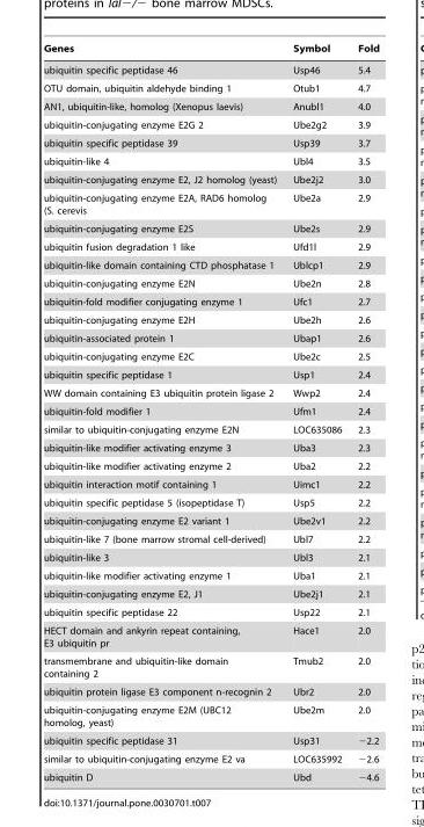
<table><thead><tr><td>Genes</td><td>Symbol</td><td>Fold</td></tr></thead><tbody><tr><td>ubiquitin specific peptidase 46</td><td>Usp46</td><td>5.4</td></tr><tr><td>OTU domain, ubiquitin aldehyde binding 1</td><td>Otub1</td><td>4.7</td></tr><tr><td>AN1, ubiquitin-like, homolog (Xenopus laevis)</td><td>Anubl1</td><td>4.0</td></tr><tr><td>ubiquitin-conjugating enzyme E2G 2</td><td>Ube2g2</td><td>3.9</td></tr><tr><td>ubiquitin specific peptidase 39</td><td>Usp39</td><td>3.7</td></tr><tr><td>ubiquitin-like 4</td><td>Ubl4</td><td>3.5</td></tr><tr><td>ubiquitin-conjugating enzyme E2, J2 homolog (yeast)</td><td>Ube2j2</td><td>3.0</td></tr><tr><td>ubiquitin-conjugating enzyme E2A, RAD6 homolog (S. cerevis</td><td>Ube2a</td><td>2.9</td></tr><tr><td>ubiquitin-conjugating enzyme E2S</td><td>Ube2s</td><td>2.9</td></tr><tr><td>ubiquitin fusion degradation 1 like</td><td>Ufd1l</td><td>2.9</td></tr><tr><td>ubiquitin-like domain containing CTD phosphatase 1</td><td>Ublcp1</td><td>2.9</td></tr><tr><td>ubiquitin-conjugating enzyme E2N</td><td>Ube2n</td><td>2.8</td></tr><tr><td>ubiquitin-fold modifier conjugating enzyme 1</td><td>Ufc1</td><td>2.7</td></tr><tr><td>ubiquitin-conjugating enzyme E2H</td><td>Ube2h</td><td>2.6</td></tr><tr><td>ubiquitin-associated protein 1</td><td>Ubap1</td><td>2.6</td></tr><tr><td>ubiquitin-conjugating enzyme E2C</td><td>Ube2c</td><td>2.5</td></tr><tr><td>ubiquitin specific peptidase 1</td><td>Usp1</td><td>2.4</td></tr><tr><td>WW domain containing E3 ubiquitin protein ligase 2</td><td>Wwp2</td><td>2.4</td></tr><tr><td>ubiquitin-fold modifier 1</td><td>Ufm1</td><td>2.4</td></tr><tr><td>similar to ubiquitin-conjugating enzyme E2N</td><td>LOC635086</td><td>2.3</td></tr><tr><td>ubiquitin-like modifier activating enzyme 3</td><td>Uba3</td><td>2.3</td></tr><tr><td>ubiquitin-like modifier activating enzyme 2</td><td>Uba2</td><td>2.2</td></tr><tr><td>ubiquitin interaction motif containing 1</td><td>Uimc1</td><td>2.2</td></tr><tr><td>ubiquitin specific peptidase 5 (isopeptidase T)</td><td>Usp5</td><td>2.2</td></tr><tr><td>ubiquitin-conjugating enzyme E2 variant 1</td><td>Ube2v1</td><td>2.2</td></tr><tr><td>ubiquitin-like 7 (bone marrow stromal cell-derived)</td><td>Ubl7</td><td>2.2</td></tr><tr><td>ubiquitin-like 3</td><td>Ubl3</td><td>2.1</td></tr><tr><td>ubiquitin-like modifier activating enzyme 1</td><td>Uba1</td><td>2.1</td></tr><tr><td>ubiquitin-conjugating enzyme E2, J1</td><td>Ube2j1</td><td>2.1</td></tr><tr><td>ubiquitin specific peptidase 22</td><td>Usp22</td><td>2.1</td></tr><tr><td>HECT domain and ankyrin repeat containing, E3 ubiquitin pr</td><td>Hace1</td><td>2.0</td></tr><tr><td>transmembrane and ubiquitin-like domain containing 2</td><td>Tmub2</td><td>2.0</td></tr><tr><td>ubiquitin protein ligase E3 component n-recognin 2</td><td>Ubr2</td><td>2.0</td></tr><tr><td>ubiquitin-conjugating enzyme E2M (UBC12 homolog, yeast)</td><td>Ube2m</td><td>2.0</td></tr><tr><td>ubiquitin specific peptidase 31</td><td>Usp31</td><td>−2.2</td></tr><tr><td>similar to ubiquitin-conjugating enzyme E2 va</td><td>LOC635992</td><td>−2.6</td></tr><tr><td>ubiquitin D</td><td>Ubd</td><td>−4.6</td></tr></tbody></table>